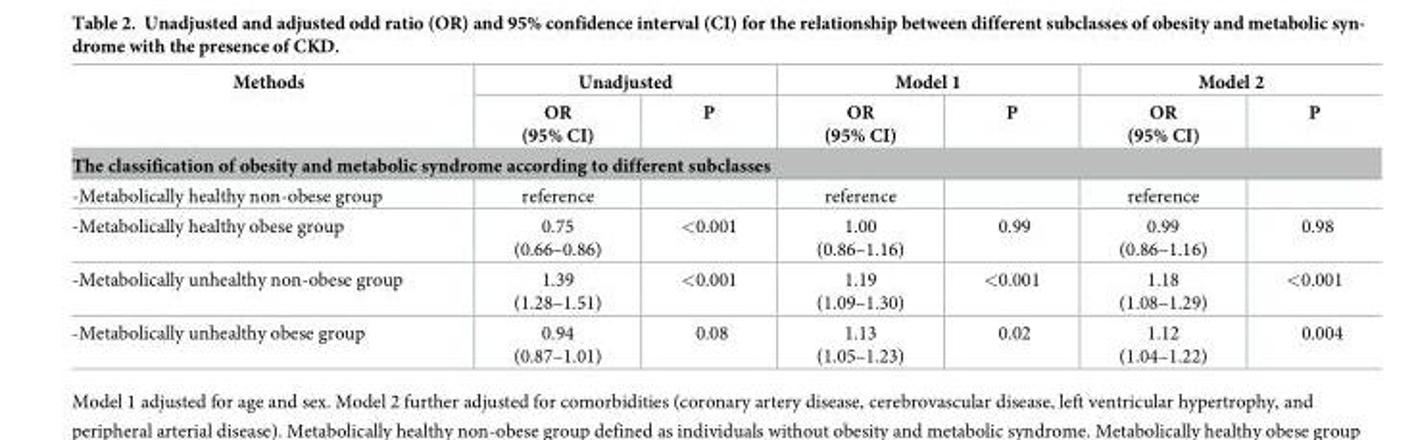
<table><thead><tr><td rowspan="2">Methods</td><td colspan="2">Unadjusted</td><td colspan="2">Model 1</td><td colspan="2">Model 2</td></tr><tr><td>OR (95% CI)</td><td>P</td><td>OR (95% CI)</td><td>P</td><td>OR (95% CI)</td><td>P</td></tr><tr><td colspan="7">The classification of obesity and metabolic syndrome according to different subclasses</td></tr></thead><tbody><tr><td>-Metabolically healthy non-obese group</td><td>reference</td><td></td><td>reference</td><td></td><td>reference</td><td></td></tr><tr><td>-Metabolically healthy obese group</td><td>0.75 (0.66–0.86)</td><td>&lt;0.001</td><td>1.00 (0.86–1.16)</td><td>0.99</td><td>0.99 (0.86–1.16)</td><td>0.98</td></tr><tr><td>-Metabolically unhealthy non-obese group</td><td>1.39 (1.28–1.51)</td><td>&lt;0.001</td><td>1.19 (1.09–1.30)</td><td>&lt;0.001</td><td>1.18 (1.08–1.29)</td><td>&lt;0.001</td></tr><tr><td>-Metabolically unhealthy obese group</td><td>0.94 (0.87–1.01)</td><td>0.08</td><td>1.13 (1.05–1.23)</td><td>0.02</td><td>1.12 (1.04–1.22)</td><td>0.004</td></tr></tbody></table>